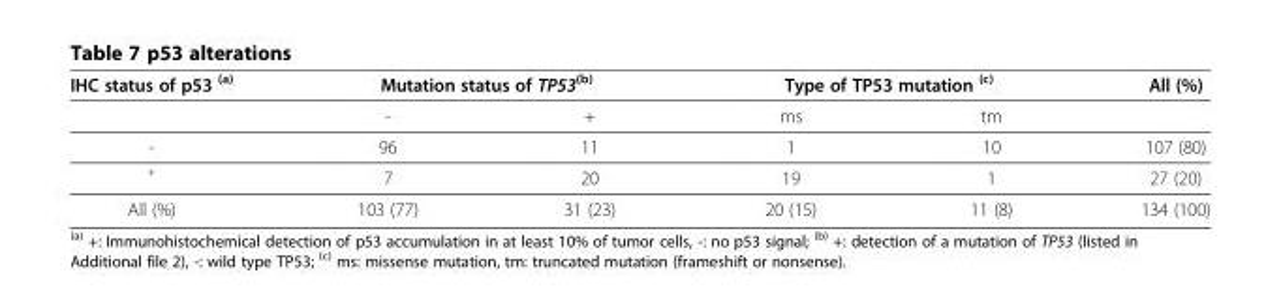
<table><thead><tr><td rowspan="2">IHC status of p53 <sup>(a)</sup></td><td colspan="2">Mutation status of TP53<sup>(b)</sup></td><td colspan="2">Type of TP53 mutation <sup>(c)</sup></td><td rowspan="2">All (%)</td></tr><tr><td>-</td><td>+</td><td>ms</td><td>tm</td></tr></thead><tbody><tr><td>-</td><td>96</td><td>11</td><td>1</td><td>10</td><td>107 (80)</td></tr><tr><td><sup>+</sup></td><td>7</td><td>20</td><td>19</td><td>1</td><td>27 (20)</td></tr><tr><td>All (%)</td><td>103 (77)</td><td>31 (23)</td><td>20 (15)</td><td>11 (8)</td><td>134 (100)</td></tr></tbody></table>